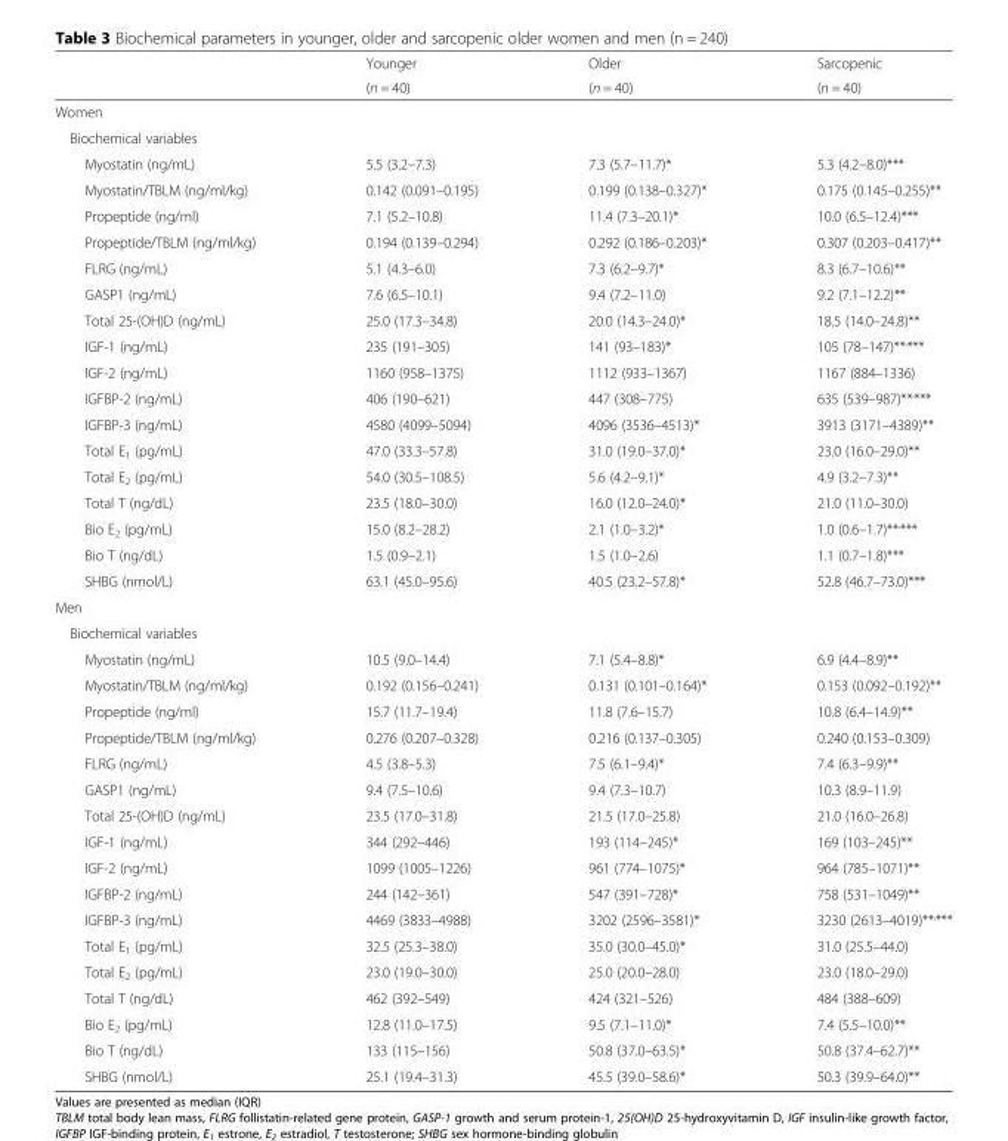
<table><thead><tr><td rowspan="2"></td><td rowspan="2">Younger (n = 40)</td><td rowspan="2">Older (n = 40)</td><td rowspan="2">Sarcopenic (n = 40)</td></tr><tr></tr></thead><tbody><tr><td colspan="4">Women</td></tr><tr><td colspan="4">Biochemical variables</td></tr><tr><td>Myostatin (ng/mL)</td><td>5.5 (3.2–7.3)</td><td>7.3 (5.7–11.7)*</td><td>5.3 (4.2–8.0)***</td></tr><tr><td>Myostatin/TBLM (ng/ml/kg)</td><td>0.142 (0.091–0.195)</td><td>0.199 (0.138–0.327)*</td><td>0.175 (0.145–0.255)**</td></tr><tr><td>Propeptide (ng/ml)</td><td>7.1 (5.2–10.8)</td><td>11.4 (7.3–20.1)*</td><td>10.0 (6.5–12.4)***</td></tr><tr><td>Propeptide/TBLM (ng/ml/kg)</td><td>0.194 (0.139–0.294)</td><td>0.292 (0.186–0.203)*</td><td>0.307 (0.203–0.417)**</td></tr><tr><td>FLRG (ng/mL)</td><td>5.1 (4.3–6.0)</td><td>7.3 (6.2–9.7)*</td><td>8.3 (6.7–10.6)**</td></tr><tr><td>GASP1 (ng/mL)</td><td>7.6 (6.5–10.1)</td><td>9.4 (7.2–11.0)</td><td>9.2 (7.1–12.2)**</td></tr><tr><td>Total 25-(OH)D (ng/mL)</td><td>25.0 (17.3–34.8)</td><td>20.0 (14.3–24.0)*</td><td>18.5 (14.0–24.8)**</td></tr><tr><td>IGF-1 (ng/mL)</td><td>235 (191–305)</td><td>141 (93–183)*</td><td>105 (78–147)**<sup>,</sup>***</td></tr><tr><td>IGF-2 (ng/mL)</td><td>1160 (958–1375)</td><td>1112 (933–1367)</td><td>1167 (884–1336)</td></tr><tr><td>IGFBP-2 (ng/mL)</td><td>406 (190–621)</td><td>447 (308–775)</td><td>635 (539–987)**<sup>,</sup>***</td></tr><tr><td>IGFBP-3 (ng/mL)</td><td>4580 (4099–5094)</td><td>4096 (3536–4513)*</td><td>3913 (3171–4389)**</td></tr><tr><td>Total E<sub>1</sub> (pg/mL)</td><td>47.0 (33.3–57.8)</td><td>31.0 (19.0–37.0)*</td><td>23.0 (16.0–29.0)**</td></tr><tr><td>Total E<sub>2</sub> (pg/mL)</td><td>54.0 (30.5–108.5)</td><td>5.6 (4.2–9.1)*</td><td>4.9 (3.2–7.3)**</td></tr><tr><td>Total T (ng/dL)</td><td>23.5 (18.0–30.0)</td><td>16.0 (12.0–24.0)*</td><td>21.0 (11.0–30.0)</td></tr><tr><td>Bio E<sub>2</sub> (pg/mL)</td><td>15.0 (8.2–28.2)</td><td>2.1 (1.0–3.2)*</td><td>1.0 (0.6–1.7)**<sup>,</sup>***</td></tr><tr><td>Bio T (ng/dL)</td><td>1.5 (0.9–2.1)</td><td>1.5 (1.0–2.6)</td><td>1.1 (0.7–1.8)***</td></tr><tr><td>SHBG (nmol/L)</td><td>63.1 (45.0–95.6)</td><td>40.5 (23.2–57.8)*</td><td>52.8 (46.7–73.0)***</td></tr><tr><td colspan="4">Men</td></tr><tr><td colspan="4">Biochemical variables</td></tr><tr><td>Myostatin (ng/mL)</td><td>10.5 (9.0–14.4)</td><td>7.1 (5.4–8.8)*</td><td>6.9 (4.4–8.9)**</td></tr><tr><td>Myostatin/TBLM (ng/ml/kg)</td><td>0.192 (0.156–0.241)</td><td>0.131 (0.101–0.164)*</td><td>0.153 (0.092–0.192)**</td></tr><tr><td>Propeptide (ng/ml)</td><td>15.7 (11.7–19.4)</td><td>11.8 (7.6–15.7)</td><td>10.8 (6.4–14.9)**</td></tr><tr><td>Propeptide/TBLM (ng/ml/kg)</td><td>0.276 (0.207–0.328)</td><td>0.216 (0.137–0.305)</td><td>0.240 (0.153–0.309)</td></tr><tr><td>FLRG (ng/mL)</td><td>4.5 (3.8–5.3)</td><td>7.5 (6.1–9.4)*</td><td>7.4 (6.3–9.9)**</td></tr><tr><td>GASP1 (ng/mL)</td><td>9.4 (7.5–10.6)</td><td>9.4 (7.3–10.7)</td><td>10.3 (8.9–11.9)</td></tr><tr><td>Total 25-(OH)D (ng/mL)</td><td>23.5 (17.0–31.8)</td><td>21.5 (17.0–25.8)</td><td>21.0 (16.0–26.8)</td></tr><tr><td>IGF-1 (ng/mL)</td><td>344 (292–446)</td><td>193 (114–245)*</td><td>169 (103–245)**</td></tr><tr><td>IGF-2 (ng/mL)</td><td>1099 (1005–1226)</td><td>961 (774–1075)*</td><td>964 (785–1071)**</td></tr><tr><td>IGFBP-2 (ng/mL)</td><td>244 (142–361)</td><td>547 (391–728)*</td><td>758 (531–1049)**</td></tr><tr><td>IGFBP-3 (ng/mL)</td><td>4469 (3833–4988)</td><td>3202 (2596–3581)*</td><td>3230 (2613–4019)**<sup>,</sup>***</td></tr><tr><td>Total E<sub>1</sub> (pg/mL)</td><td>32.5 (25.3–38.0)</td><td>35.0 (30.0–45.0)*</td><td>31.0 (25.5–44.0)</td></tr><tr><td>Total E<sub>2</sub> (pg/mL)</td><td>23.0 (19.0–30.0)</td><td>25.0 (20.0–28.0)</td><td>23.0 (18.0–29.0)</td></tr><tr><td>Total T (ng/dL)</td><td>462 (392–549)</td><td>424 (321–526)</td><td>484 (388–609)</td></tr><tr><td>Bio E<sub>2</sub> (pg/mL)</td><td>12.8 (11.0–17.5)</td><td>9.5 (7.1–11.0)*</td><td>7.4 (5.5–10.0)**</td></tr><tr><td>Bio T (ng/dL)</td><td>133 (115–156)</td><td>50.8 (37.0–63.5)*</td><td>50.8 (37.4–62.7)**</td></tr><tr><td>SHBG (nmol/L)</td><td>25.1 (19.4–31.3)</td><td>45.5 (39.0–58.6)*</td><td>50.3 (39.9–64.0)**</td></tr></tbody></table>